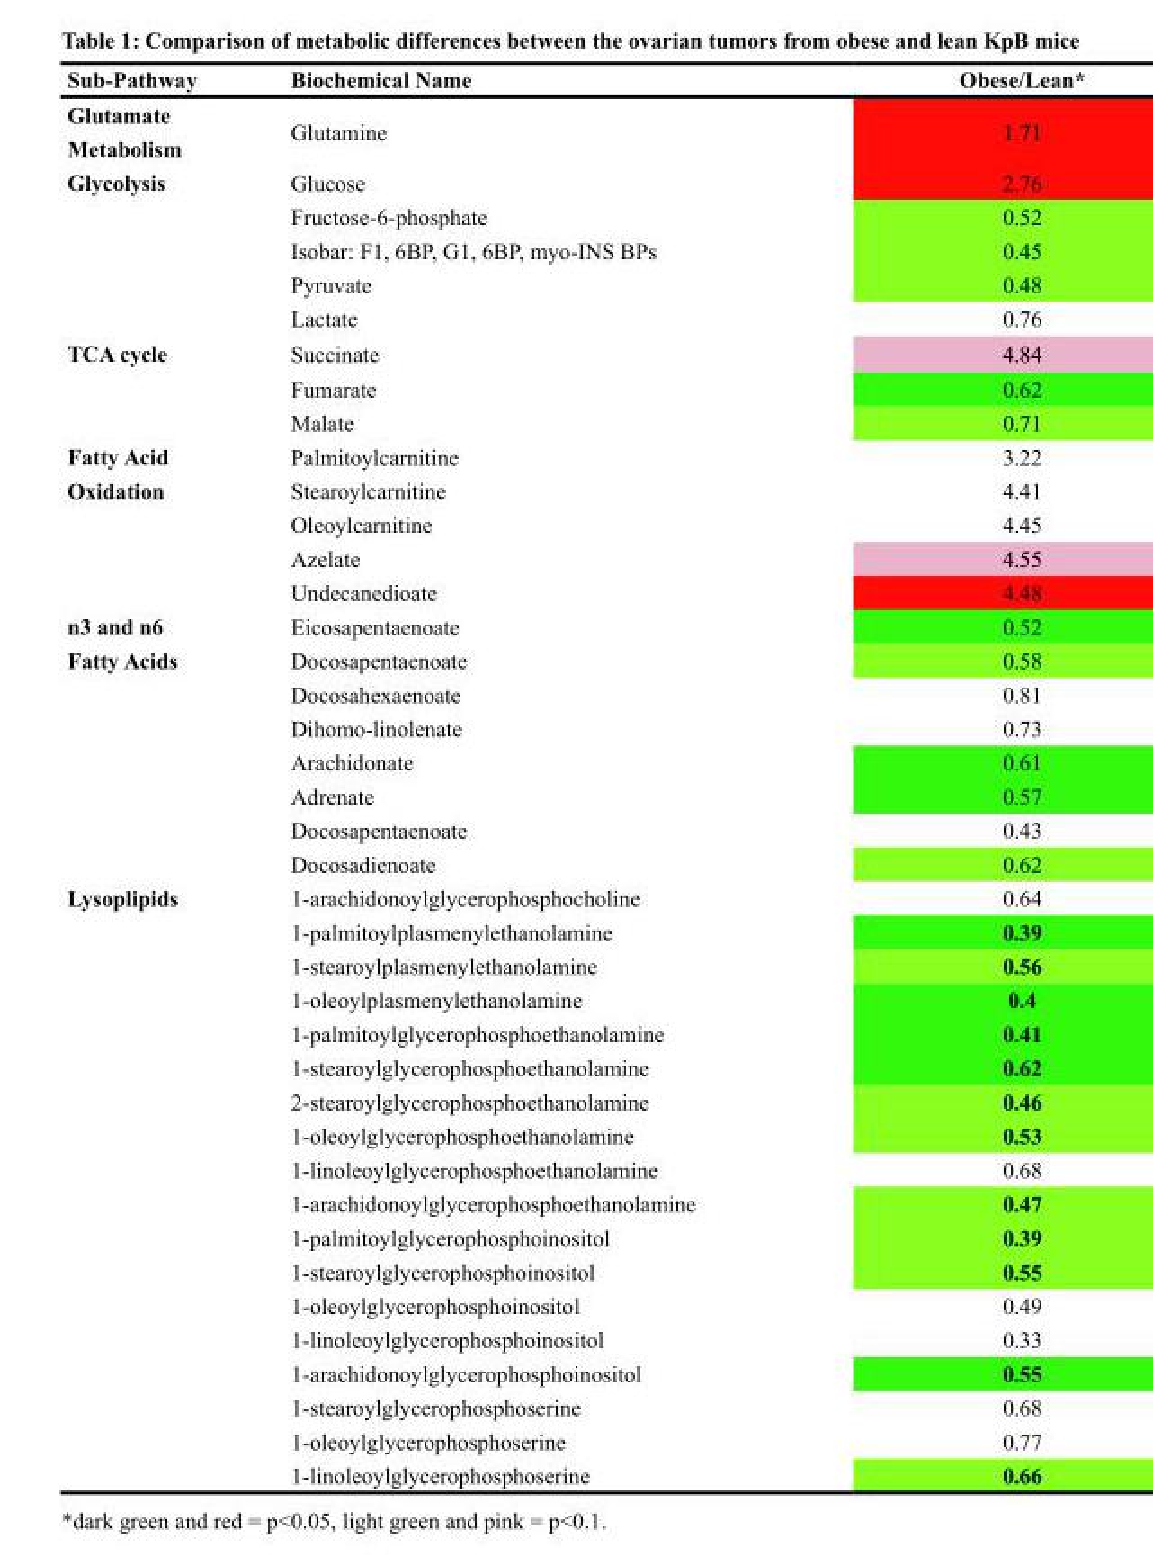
<table><thead><tr><td>Sub-Pathway</td><td>Biochemical Name</td><td>Obese/Lean*</td></tr></thead><tbody><tr><td>Glutamate Metabolism</td><td>Glutamine</td><td>1.71</td></tr><tr><td rowspan="5">Glycolysis</td><td>Glucose</td><td>2.76</td></tr><tr><td>Fructose-6-phosphate</td><td>0.52</td></tr><tr><td>Isobar: F1, 6BP, G1, 6BP, myo-INS BPs</td><td>0.45</td></tr><tr><td>Pyruvate</td><td>0.48</td></tr><tr><td>Lactate</td><td>0.76</td></tr><tr><td rowspan="3">TCA cycle</td><td>Succinate</td><td>4.84</td></tr><tr><td>Fumarate</td><td>0.62</td></tr><tr><td>Malate</td><td>0.71</td></tr><tr><td>Fatty Acid</td><td>Palmitoylcarnitine</td><td>3.22</td></tr><tr><td rowspan="4">Oxidation</td><td>Stearoylcarnitine</td><td>4.41</td></tr><tr><td>Oleoylcarnitine</td><td>4.45</td></tr><tr><td>Azelate</td><td>4.55</td></tr><tr><td>Undecanedioate</td><td>4.48</td></tr><tr><td>n3 and n6</td><td>Eicosapentaenoate</td><td>0.52</td></tr><tr><td rowspan="7">Fatty Acids</td><td>Docosapentaenoate</td><td>0.58</td></tr><tr><td>Docosahexaenoate</td><td>0.81</td></tr><tr><td>Dihomo-linolenate</td><td>0.73</td></tr><tr><td>Arachidonate</td><td>0.61</td></tr><tr><td>Adrenate</td><td>0.57</td></tr><tr><td>Docosapentaenoate</td><td>0.43</td></tr><tr><td>Docosadienoate</td><td>0.62</td></tr><tr><td rowspan="18">Lysoplipids</td><td>1-arachidonoylglycerophosphocholine</td><td>0.64</td></tr><tr><td>1-palmitoylplasmenylethanolamine</td><td>0.39</td></tr><tr><td>1-stearoylplasmenylethanolamine</td><td>0.56</td></tr><tr><td>1-oleoylplasmenylethanolamine</td><td>0.4</td></tr><tr><td>1-palmitoylglycerophosphoethanolamine</td><td>0.41</td></tr><tr><td>1-stearoylglycerophosphoethanolamine</td><td>0.62</td></tr><tr><td>2-stearoylglycerophosphoethanolamine</td><td>0.46</td></tr><tr><td>1-oleoylglycerophosphoethanolamine</td><td>0.53</td></tr><tr><td>1-linoleoylglycerophosphoethanolamine</td><td>0.68</td></tr><tr><td>1-arachidonoylglycerophosphoethanolamine</td><td>0.47</td></tr><tr><td>1-palmitoylglycerophosphoinositol</td><td>0.39</td></tr><tr><td>1-stearoylglycerophosphoinositol</td><td>0.55</td></tr><tr><td>1-oleoylglycerophosphoinositol</td><td>0.49</td></tr><tr><td>1-linoleoylglycerophosphoinositol</td><td>0.33</td></tr><tr><td>1-arachidonoylglycerophosphoinositol</td><td>0.55</td></tr><tr><td>1-stearoylglycerophosphoserine</td><td>0.68</td></tr><tr><td>1-oleoylglycerophosphoserine</td><td>0.77</td></tr><tr><td>1-linoleoylglycerophosphoserine</td><td>0.66</td></tr></tbody></table>